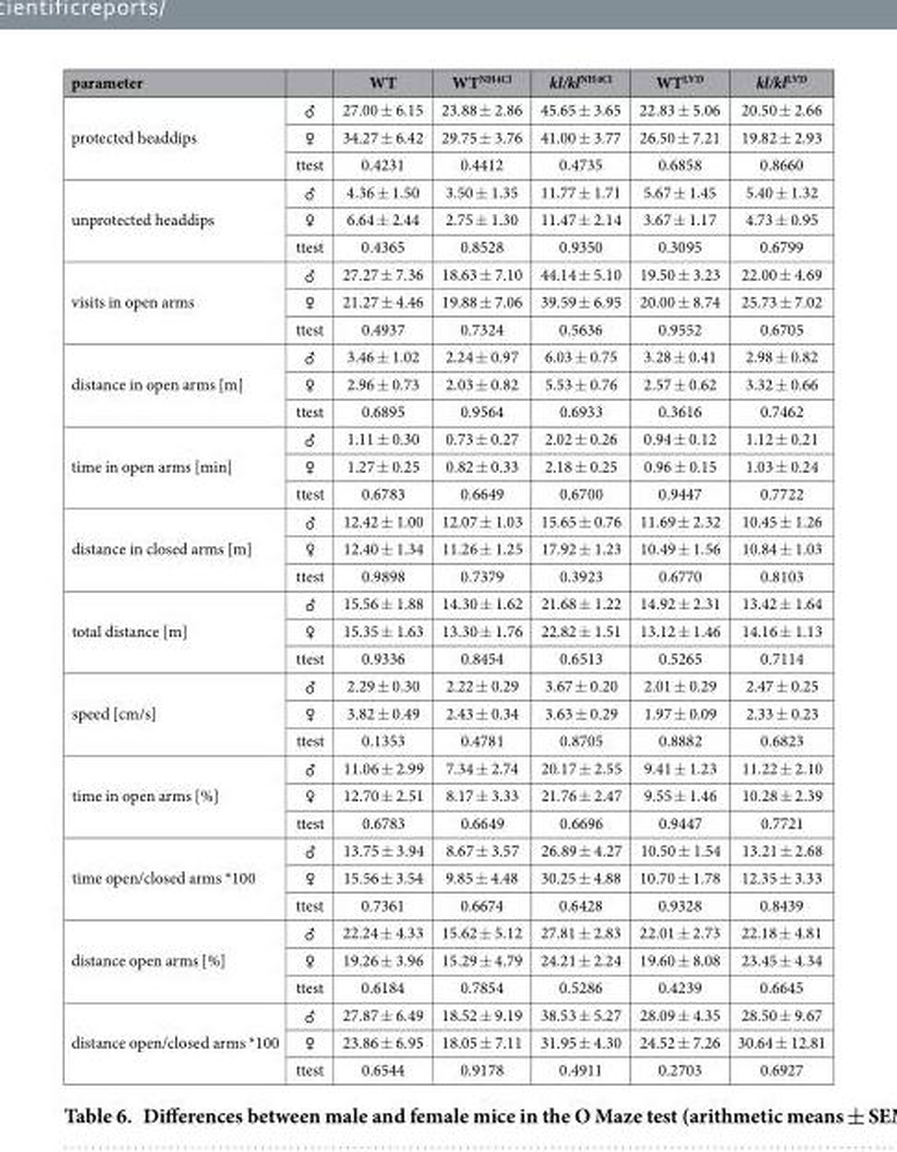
<table><thead><tr><td>parameter</td><td></td><td>WT</td><td>WT<sup>NH4Cl</sup></td><td>kl/kl<sup>NH4Cl</sup></td><td>WT<sup>LVD</sup></td><td>kl/kl<sup>LVD</sup></td></tr></thead><tbody><tr><td rowspan="3">protected headdips</td><td>♂</td><td>27.00 ± 6.15</td><td>23.88 ± 2.86</td><td>45.65 ± 3.65</td><td>22.83 ± 5.06</td><td>20.50 ± 2.66</td></tr><tr><td>♀</td><td>34.27 ± 6.42</td><td>29.75 ± 3.76</td><td>41.00 ± 3.77</td><td>26.50 ± 7.21</td><td>19.82 ± 2.93</td></tr><tr><td>ttest</td><td>0.4231</td><td>0.4412</td><td>0.4735</td><td>0.6858</td><td>0.8660</td></tr><tr><td rowspan="3">unprotected headdips</td><td>♂</td><td>4.36 ± 1.50</td><td>3.50 ± 1.35</td><td>11.77 ± 1.71</td><td>5.67 ± 1.45</td><td>5.40 ± 1.32</td></tr><tr><td>♀</td><td>6.64 ± 2.44</td><td>2.75 ± 1.30</td><td>11.47 ± 2.14</td><td>3.67 ± 1.17</td><td>4.73 ± 0.95</td></tr><tr><td>ttest</td><td>0.4365</td><td>0.8528</td><td>0.9350</td><td>0.3095</td><td>0.6799</td></tr><tr><td rowspan="3">visits in open arms</td><td>♂</td><td>27.27 ± 7.36</td><td>18.63 ± 7.10</td><td>44.14 ± 5.10</td><td>19.50 ± 3.23</td><td>22.00 ± 4.69</td></tr><tr><td>♀</td><td>21.27 ± 4.46</td><td>19.88 ± 7.06</td><td>39.59 ± 6.95</td><td>20.00 ± 8.74</td><td>25.73 ± 7.02</td></tr><tr><td>ttest</td><td>0.4937</td><td>0.7324</td><td>0.5636</td><td>0.9552</td><td>0.6705</td></tr><tr><td rowspan="3">distance in open arms [m]</td><td>♂</td><td>3.46 ± 1.02</td><td>2.24 ± 0.97</td><td>6.03 ± 0.75</td><td>3.28 ± 0.41</td><td>2.98 ± 0.82</td></tr><tr><td>♀</td><td>2.96 ± 0.73</td><td>2.03 ± 0.82</td><td>5.53 ± 0.76</td><td>2.57 ± 0.62</td><td>3.32 ± 0.66</td></tr><tr><td>ttest</td><td>0.6895</td><td>0.9564</td><td>0.6933</td><td>0.3616</td><td>0.7462</td></tr><tr><td rowspan="3">time in open arms [min]</td><td>♂</td><td>1.11 ± 0.30</td><td>0.73 ± 0.27</td><td>2.02 ± 0.26</td><td>0.94 ± 0.12</td><td>1.12 ± 0.21</td></tr><tr><td>♀</td><td>1.27 ± 0.25</td><td>0.82 ± 0.33</td><td>2.18 ± 0.25</td><td>0.96 ± 0.15</td><td>1.03 ± 0.24</td></tr><tr><td>ttest</td><td>0.6783</td><td>0.6649</td><td>0.6700</td><td>0.9447</td><td>0.7722</td></tr><tr><td rowspan="3">distance in closed arms [m]</td><td>♂</td><td>12.42 ± 1.00</td><td>12.07 ± 1.03</td><td>15.65 ± 0.76</td><td>11.69 ± 2.32</td><td>10.45 ± 1.26</td></tr><tr><td>♀</td><td>12.40 ± 1.34</td><td>11.26 ± 1.25</td><td>17.92 ± 1.23</td><td>10.49 ± 1.56</td><td>10.84 ± 1.03</td></tr><tr><td>ttest</td><td>0.9898</td><td>0.7379</td><td>0.3923</td><td>0.6770</td><td>0.8103</td></tr><tr><td rowspan="3">total distance [m]</td><td>♂</td><td>15.56 ± 1.88</td><td>14.30 ± 1.62</td><td>21.68 ± 1.22</td><td>14.92 ± 2.31</td><td>13.42 ± 1.64</td></tr><tr><td>♀</td><td>15.35 ± 1.63</td><td>13.30 ± 1.76</td><td>22.82 ± 1.51</td><td>13.12 ± 1.46</td><td>14.16 ± 1.13</td></tr><tr><td>ttest</td><td>0.9336</td><td>0.8454</td><td>0.6513</td><td>0.5265</td><td>0.7114</td></tr><tr><td rowspan="3">speed [cm/s]</td><td>♂</td><td>2.29 ± 0.30</td><td>2.22 ± 0.29</td><td>3.67 ± 0.20</td><td>2.01 ± 0.29</td><td>2.47 ± 0.25</td></tr><tr><td>♀</td><td>3.82 ± 0.49</td><td>2.43 ± 0.34</td><td>3.63 ± 0.29</td><td>1.97 ± 0.09</td><td>2.33 ± 0.23</td></tr><tr><td>ttest</td><td>0.1353</td><td>0.4781</td><td>0.8705</td><td>0.8882</td><td>0.6823</td></tr><tr><td rowspan="3">time in open arms [%]</td><td>♂</td><td>11.06 ± 2.99</td><td>7.34 ± 2.74</td><td>20.17 ± 2.55</td><td>9.41 ± 1.23</td><td>11.22 ± 2.10</td></tr><tr><td>♀</td><td>12.70 ± 2.51</td><td>8.17 ± 3.33</td><td>21.76 ± 2.47</td><td>9.55 ± 1.46</td><td>10.28 ± 2.39</td></tr><tr><td>ttest</td><td>0.6783</td><td>0.6649</td><td>0.6696</td><td>0.9447</td><td>0.7721</td></tr><tr><td rowspan="3">time open/closed arms *100</td><td>♂</td><td>13.75 ± 3.94</td><td>8.67 ± 3.57</td><td>26.89 ± 4.27</td><td>10.50 ± 1.54</td><td>13.21 ± 2.68</td></tr><tr><td>♀</td><td>15.56 ± 3.54</td><td>9.85 ± 4.48</td><td>30.25 ± 4.88</td><td>10.70 ± 1.78</td><td>12.35 ± 3.33</td></tr><tr><td>ttest</td><td>0.7361</td><td>0.6674</td><td>0.6428</td><td>0.9328</td><td>0.8439</td></tr><tr><td rowspan="3">distance open arms [%]</td><td>♂</td><td>22.24 ± 4.33</td><td>15.62 ± 5.12</td><td>27.81 ± 2.83</td><td>22.01 ± 2.73</td><td>22.18 ± 4.81</td></tr><tr><td>♀</td><td>19.26 ± 3.96</td><td>15.29 ± 4.79</td><td>24.21 ± 2.24</td><td>19.60 ± 8.08</td><td>23.45 ± 4.34</td></tr><tr><td>ttest</td><td>0.6184</td><td>0.7854</td><td>0.5286</td><td>0.4239</td><td>0.6645</td></tr><tr><td rowspan="3">distance open/closed arms *100</td><td>♂</td><td>27.87 ± 6.49</td><td>18.52 ± 9.19</td><td>38.53 ± 5.27</td><td>28.09 ± 4.35</td><td>28.50 ± 9.67</td></tr><tr><td>♀</td><td>23.86 ± 6.95</td><td>18.05 ± 7.11</td><td>31.95 ± 4.30</td><td>24.52 ± 7.26</td><td>30.64 ± 12.81</td></tr><tr><td>ttest</td><td>0.6544</td><td>0.9178</td><td>0.4911</td><td>0.2703</td><td>0.6927</td></tr></tbody></table>